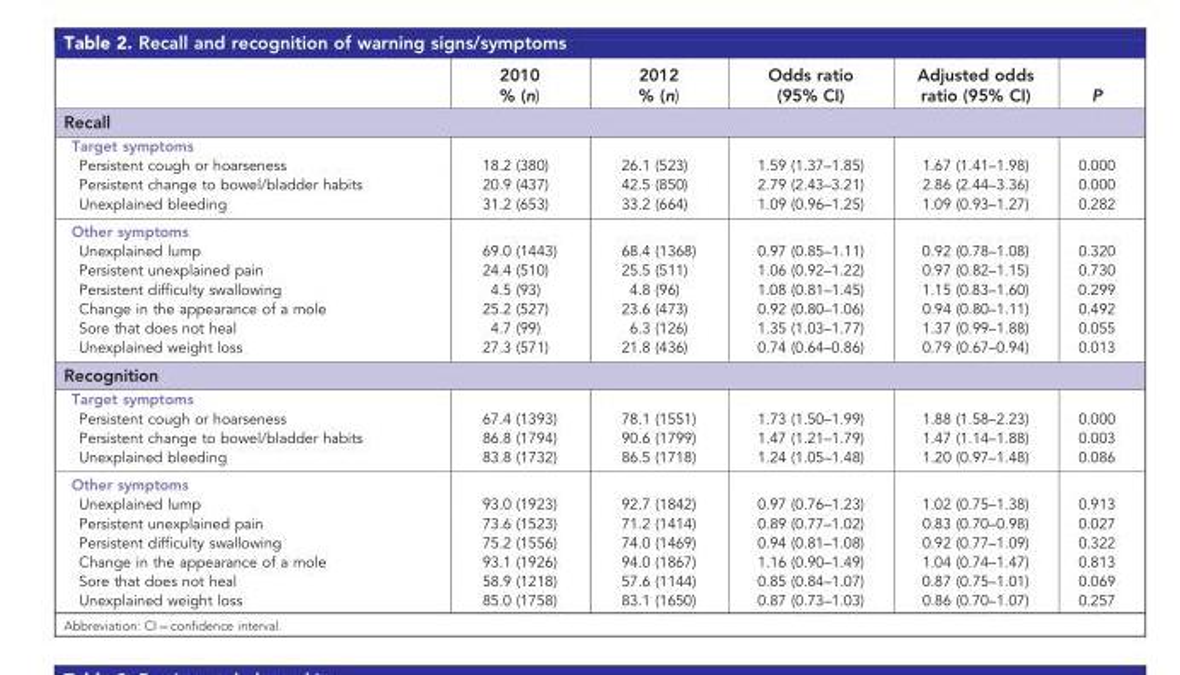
<table><thead><tr><td></td><td>2010 % (n)</td><td>2012 % (n)</td><td>Odds ratio (95% CI)</td><td>Adjusted odds ratio (95% CI)</td><td>P</td></tr></thead><tbody><tr><td colspan="6">Recall</td></tr><tr><td colspan="6">Target symptoms</td></tr><tr><td>Persistent cough or hoarseness</td><td>18.2 (380)</td><td>26.1 (523)</td><td>1.59 (1.37–1.85)</td><td>1.67 (1.41–1.98)</td><td>0.000</td></tr><tr><td>Persistent change to bowel/bladder habits</td><td>20.9 (437)</td><td>42.5 (850)</td><td>2.79 (2.43–3.21)</td><td>2.86 (2.44–3.36)</td><td>0.000</td></tr><tr><td>Unexplained bleeding</td><td>31.2 (653)</td><td>33.2 (664)</td><td>1.09 (0.96–1.25)</td><td>1.09 (0.93–1.27)</td><td>0.282</td></tr><tr><td colspan="6">Other symptoms</td></tr><tr><td>Unexplained lump</td><td>69.0 (1443)</td><td>68.4 (1368)</td><td>0.97 (0.85–1.11)</td><td>0.92 (0.78–1.08)</td><td>0.320</td></tr><tr><td>Persistent unexplained pain</td><td>24.4 (510)</td><td>25.5 (511)</td><td>1.06 (0.92–1.22)</td><td>0.97 (0.82–1.15)</td><td>0.730</td></tr><tr><td>Persistent difficulty swallowing</td><td>4.5 (93)</td><td>4.8 (96)</td><td>1.08 (0.81–1.45)</td><td>1.15 (0.83–1.60)</td><td>0.299</td></tr><tr><td>Change in the appearance of a mole</td><td>25.2 (527)</td><td>23.6 (473)</td><td>0.92 (0.80–1.06)</td><td>0.94 (0.80–1.11)</td><td>0.492</td></tr><tr><td>Sore that does not heal</td><td>4.7 (99)</td><td>6.3 (126)</td><td>1.35 (1.03–1.77)</td><td>1.37 (0.99–1.88)</td><td>0.055</td></tr><tr><td>Unexplained weight loss</td><td>27.3 (571)</td><td>21.8 (436)</td><td>0.74 (0.64–0.86)</td><td>0.79 (0.67–0.94)</td><td>0.013</td></tr><tr><td colspan="6">Recognition</td></tr><tr><td colspan="6">Target symptoms</td></tr><tr><td>Persistent cough or hoarseness</td><td>67.4 (1393)</td><td>78.1 (1551)</td><td>1.73 (1.50–1.99)</td><td>1.88 (1.58–2.23)</td><td>0.000</td></tr><tr><td>Persistent change to bowel/bladder habits</td><td>86.8 (1794)</td><td>90.6 (1799)</td><td>1.47 (1.21–1.79)</td><td>1.47 (1.14–1.88)</td><td>0.003</td></tr><tr><td>Unexplained bleeding</td><td>83.8 (1732)</td><td>86.5 (1718)</td><td>1.24 (1.05–1.48)</td><td>1.20 (0.97–1.48)</td><td>0.086</td></tr><tr><td colspan="6">Other symptoms</td></tr><tr><td>Unexplained lump</td><td>93.0 (1923)</td><td>92.7 (1842)</td><td>0.97 (0.76–1.23)</td><td>1.02 (0.75–1.38)</td><td>0.913</td></tr><tr><td>Persistent unexplained pain</td><td>73.6 (1523)</td><td>71.2 (1414)</td><td>0.89 (0.77–1.02)</td><td>0.83 (0.70–0.98)</td><td>0.027</td></tr><tr><td>Persistent difficulty swallowing</td><td>75.2 (1556)</td><td>74.0 (1469)</td><td>0.94 (0.81–1.08)</td><td>0.92 (0.77–1.09)</td><td>0.322</td></tr><tr><td>Change in the appearance of a mole</td><td>93.1 (1926)</td><td>94.0 (1867)</td><td>1.16 (0.90–1.49)</td><td>1.04 (0.74–1.47)</td><td>0.813</td></tr><tr><td>Sore that does not heal</td><td>58.9 (1218)</td><td>57.6 (1144)</td><td>0.85 (0.84–1.07)</td><td>0.87 (0.75–1.01)</td><td>0.069</td></tr><tr><td>Unexplained weight loss</td><td>85.0 (1758)</td><td>83.1 (1650)</td><td>0.87 (0.73–1.03)</td><td>0.86 (0.70–1.07)</td><td>0.257</td></tr></tbody></table>